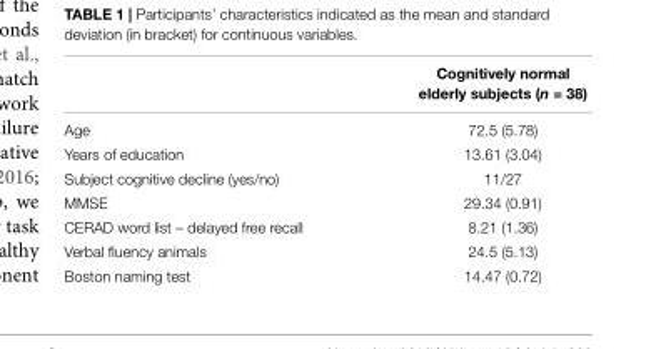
<table><thead><tr><td></td><td>Cognitively normal elderly subjects (n = 38)</td></tr></thead><tbody><tr><td>Age</td><td>72.5 (5.78)</td></tr><tr><td>Years of education</td><td>13.61 (3.04)</td></tr><tr><td>Subject cognitive decline (yes/no)</td><td>11/27</td></tr><tr><td>MMSE</td><td>29.34 (0.91)</td></tr><tr><td>CERAD word list – delayed free recall</td><td>8.21 (1.36)</td></tr><tr><td>Verbal fluency animals</td><td>24.5 (5.13)</td></tr><tr><td>Boston naming test</td><td>14.47 (0.72)</td></tr></tbody></table>